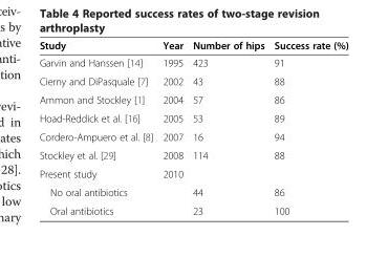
<table><thead><tr><td>Study</td><td>Year</td><td>Number of hips</td><td>Success rate (%)</td></tr></thead><tbody><tr><td>Garvin and Hanssen [14]</td><td>1995</td><td>423</td><td>91</td></tr><tr><td>Cierny and DiPasquale [7]</td><td>2002</td><td>43</td><td>88</td></tr><tr><td>Ammon and Stockley [1]</td><td>2004</td><td>57</td><td>86</td></tr><tr><td>Hoad-Reddick et al. [16]</td><td>2005</td><td>53</td><td>89</td></tr><tr><td>Cordero-Ampuero et al. [8]</td><td>2007</td><td>16</td><td>94</td></tr><tr><td>Stockley et al. [29]</td><td>2008</td><td>114</td><td>88</td></tr><tr><td>Present study</td><td>2010</td><td></td><td></td></tr><tr><td>No oral antibiotics</td><td></td><td>44</td><td>86</td></tr><tr><td>Oral antibiotics</td><td></td><td>23</td><td>100</td></tr></tbody></table>